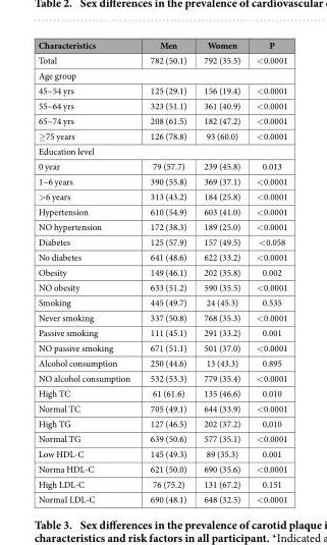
<table><thead><tr><td>Characteristics</td><td>Men</td><td>Women</td><td>P</td></tr></thead><tbody><tr><td>Total</td><td>782 (50.1)</td><td>792 (35.5)</td><td>&lt; 0.0001</td></tr><tr><td colspan="4">Age group</td></tr><tr><td>45~54 yrs</td><td>125 (29.1)</td><td>156 (19.4)</td><td>&lt; 0.0001</td></tr><tr><td>55~64 yrs</td><td>323 (51.1)</td><td>361 (40.9)</td><td>&lt; 0.0001</td></tr><tr><td>65~74 yrs</td><td>208 (61.5)</td><td>182 (47.2)</td><td>&lt; 0.0001</td></tr><tr><td>≥ 75 years</td><td>126 (78.8)</td><td>93 (60.0)</td><td>&lt; 0.0001</td></tr><tr><td colspan="4">Education level</td></tr><tr><td>0 year</td><td>79 (57.7)</td><td>239 (45.8)</td><td>0.013</td></tr><tr><td>1~6 years</td><td>390 (55.8)</td><td>369 (37.1)</td><td>&lt; 0.0001</td></tr><tr><td>&gt; 6 years</td><td>313 (43.2)</td><td>184 (25.8)</td><td>&lt; 0.0001</td></tr><tr><td>Hypertension</td><td>610 (54.9)</td><td>603 (41.0)</td><td>&lt; 0.0001</td></tr><tr><td>NO hypertension</td><td>172 (38.3)</td><td>189 (25.0)</td><td>&lt; 0.0001</td></tr><tr><td>Diabetes</td><td>125 (57.9)</td><td>157 (49.5)</td><td>&lt; 0.058</td></tr><tr><td>No diabetes</td><td>641 (48.6)</td><td>622 (33.2)</td><td>&lt; 0.0001</td></tr><tr><td>Obesity</td><td>149 (46.1)</td><td>202 (35.8)</td><td>0.002</td></tr><tr><td>NO obesity</td><td>633 (51.2)</td><td>590 (35.5)</td><td>&lt; 0.0001</td></tr><tr><td>Smoking</td><td>445 (49.7)</td><td>24 (45.3)</td><td>0.535</td></tr><tr><td>Never smoking</td><td>337 (50.8)</td><td>768 (35.3)</td><td>&lt; 0.0001</td></tr><tr><td>Passive smoking</td><td>111 (45.1)</td><td>291 (33.2)</td><td>0.001</td></tr><tr><td>NO passive smoking</td><td>671 (51.1)</td><td>501 (37.0)</td><td>&lt; 0.0001</td></tr><tr><td>Alcohol consumption</td><td>250 (44.6)</td><td>13 (43.3)</td><td>0.895</td></tr><tr><td>NO alcohol consumption</td><td>532 (53.3)</td><td>779 (35.4)</td><td>&lt; 0.0001</td></tr><tr><td>High TC</td><td>61 (61.6)</td><td>135 (46.6)</td><td>0.010</td></tr><tr><td>Normal TC</td><td>705 (49.1)</td><td>644 (33.9)</td><td>&lt; 0.0001</td></tr><tr><td>High TG</td><td>127 (46.5)</td><td>202 (37.2)</td><td>0,010</td></tr><tr><td>Normal TG</td><td>639 (50.6)</td><td>577 (35.1)</td><td>&lt; 0.0001</td></tr><tr><td>Low HDL-C</td><td>145 (49.3)</td><td>89 (35.3)</td><td>0.001</td></tr><tr><td>Norma HDL-C</td><td>621 (50.0)</td><td>690 (35.6)</td><td>&lt; 0.0001</td></tr><tr><td>High LDL-C</td><td>76 (75.2)</td><td>131 (67.2)</td><td>0.151</td></tr><tr><td>NormaI LDL-C</td><td>690 (48.1)</td><td>648 (32.5)</td><td>&lt; 0.0001</td></tr></tbody></table>